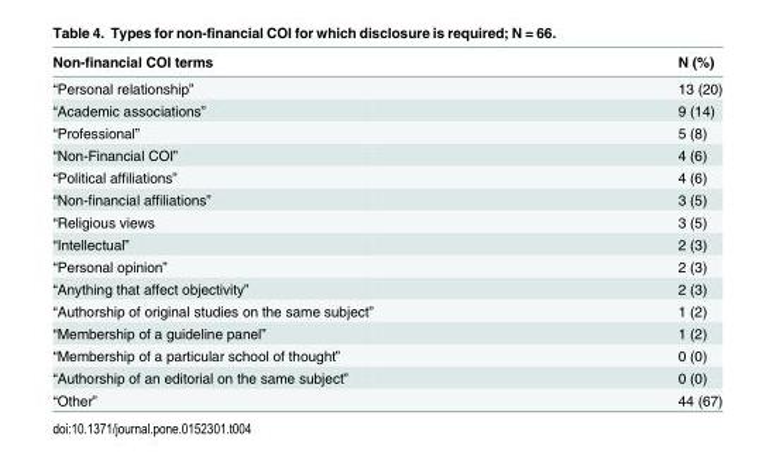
<table><thead><tr><td>Non-financial COI terms</td><td>N (%)</td></tr></thead><tbody><tr><td>“Personal relationship”</td><td>13 (20)</td></tr><tr><td>“Academic associations”</td><td>9 (14)</td></tr><tr><td>“Professional”</td><td>5 (8)</td></tr><tr><td>“Non-Financial COI”</td><td>4 (6)</td></tr><tr><td>“Political affiliations”</td><td>4 (6)</td></tr><tr><td>“Non-financial affiliations”</td><td>3 (5)</td></tr><tr><td>“Religious views</td><td>3 (5)</td></tr><tr><td>“Intellectual”</td><td>2 (3)</td></tr><tr><td>“Personal opinion”</td><td>2 (3)</td></tr><tr><td>“Anything that affect objectivity”</td><td>2 (3)</td></tr><tr><td>“Authorship of original studies on the same subject”</td><td>1 (2)</td></tr><tr><td>“Membership of a guideline panel”</td><td>1 (2)</td></tr><tr><td>“Membership of a particular school of thought”</td><td>0 (0)</td></tr><tr><td>“Authorship of an editorial on the same subject”</td><td>0 (0)</td></tr><tr><td>“Other”</td><td>44 (67)</td></tr></tbody></table>